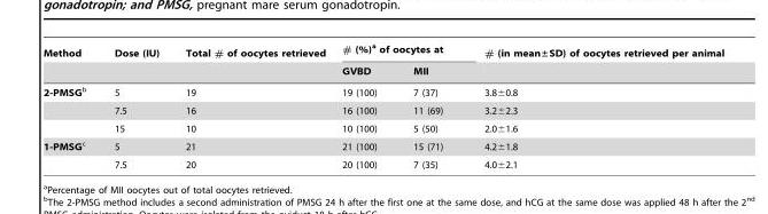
<table><thead><tr><td rowspan="2">Method</td><td rowspan="2">Dose (IU)</td><td rowspan="2">Total # of oocytes retrieved</td><td colspan="2"># (%)<sup>a</sup> of oocytes at</td><td rowspan="2"># (in mean±SD) of oocytes retrieved per animal</td></tr><tr><td>GVBD</td><td>MII</td></tr></thead><tbody><tr><td rowspan="3">2-PMSGb</td><td>5</td><td>19</td><td>19 (100)</td><td>7 (37)</td><td>3.8±0.8</td></tr><tr><td>7.5</td><td>16</td><td>16 (100)</td><td>11 (69)</td><td>3.2±2.3</td></tr><tr><td>15</td><td>10</td><td>10 (100)</td><td>5 (50)</td><td>2.0±1.6</td></tr><tr><td rowspan="2">1-PMSGc</td><td>5</td><td>21</td><td>21 (100)</td><td>15 (71)</td><td>4.2±1.8</td></tr><tr><td>7.5</td><td>20</td><td>20 (100)</td><td>7 (35)</td><td>4.0±2.1</td></tr></tbody></table>